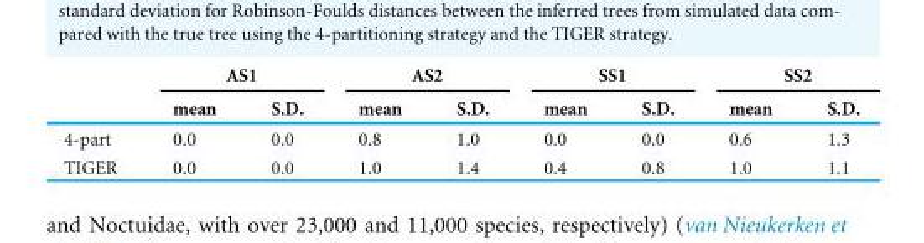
<table><thead><tr><td rowspan="2"></td><td colspan="2">AS1</td><td colspan="2">AS2</td><td colspan="2">SS1</td><td colspan="2">SS2</td></tr><tr><td>mean</td><td>S.D.</td><td>mean</td><td>S.D.</td><td>mean</td><td>S.D.</td><td>mean</td><td>S.D.</td></tr></thead><tbody><tr><td>4-part</td><td>0.0</td><td>0.0</td><td>0.8</td><td>1.0</td><td>0.0</td><td>0.0</td><td>0.6</td><td>1.3</td></tr><tr><td>TIGER</td><td>0.0</td><td>0.0</td><td>1.0</td><td>1.4</td><td>0.4</td><td>0.8</td><td>1.0</td><td>1.1</td></tr></tbody></table>